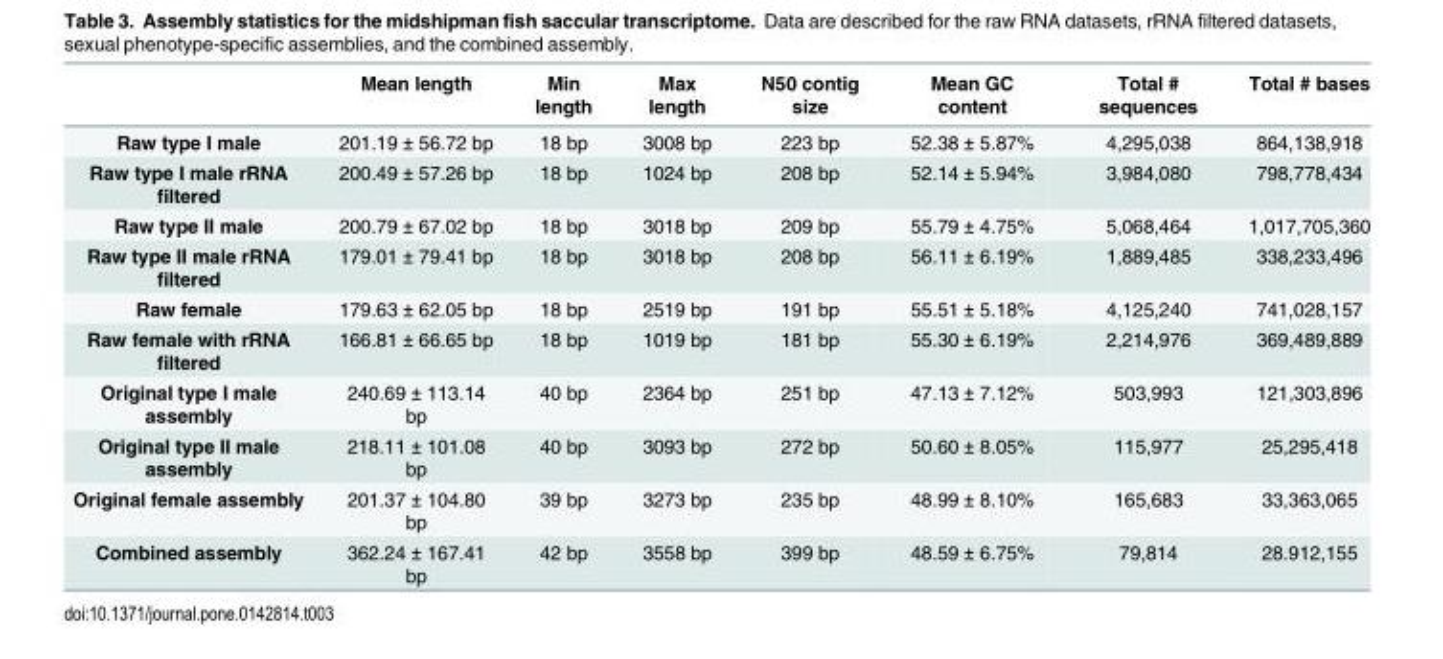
<table><thead><tr><td></td><td>Mean length</td><td>Min length</td><td>Max length</td><td>N50 contig size</td><td>Mean GC content</td><td>Total # sequences</td><td>Total # bases</td></tr></thead><tbody><tr><td>Raw type I male</td><td>201.19 ± 56.72 bp</td><td>18 bp</td><td>3008 bp</td><td>223 bp</td><td>52.38 ± 5.87%</td><td>4,295,038</td><td>864,138,918</td></tr><tr><td>Raw type I male rRNA filtered</td><td>200.49 ± 57.26 bp</td><td>18 bp</td><td>1024 bp</td><td>208 bp</td><td>52.14 ± 5.94%</td><td>3,984,080</td><td>798,778,434</td></tr><tr><td>Raw type II male</td><td>200.79 ± 67.02 bp</td><td>18 bp</td><td>3018 bp</td><td>209 bp</td><td>55.79 ± 4.75%</td><td>5,068,464</td><td>1,017,705,360</td></tr><tr><td>Raw type II male rRNA filtered</td><td>179.01 ± 79.41 bp</td><td>18 bp</td><td>3018 bp</td><td>208 bp</td><td>56.11 ± 6.19%</td><td>1,889,485</td><td>338,233,496</td></tr><tr><td>Raw female</td><td>179.63 ± 62.05 bp</td><td>18 bp</td><td>2519 bp</td><td>191 bp</td><td>55.51 ± 5.18%</td><td>4,125,240</td><td>741,028,157</td></tr><tr><td>Raw female with rRNA filtered</td><td>166.81 ± 66.65 bp</td><td>18 bp</td><td>1019 bp</td><td>181 bp</td><td>55.30 ± 6.19%</td><td>2,214,976</td><td>369,489,889</td></tr><tr><td>Original type I male assembly</td><td>240.69 ± 113.14 bp</td><td>40 bp</td><td>2364 bp</td><td>251 bp</td><td>47.13 ± 7.12%</td><td>503,993</td><td>121,303,896</td></tr><tr><td>Original type II male assembly</td><td>218.11 ± 101.08 bp</td><td>40 bp</td><td>3093 bp</td><td>272 bp</td><td>50.60 ± 8.05%</td><td>115,977</td><td>25,295,418</td></tr><tr><td>Original female assembly</td><td>201.37 ± 104.80 bp</td><td>39 bp</td><td>3273 bp</td><td>235 bp</td><td>48.99 ± 8.10%</td><td>165,683</td><td>33,363,065</td></tr><tr><td>Combined assembly</td><td>362.24 ± 167.41 bp</td><td>42 bp</td><td>3558 bp</td><td>399 bp</td><td>48.59 ± 6.75%</td><td>79,814</td><td>28.912,155</td></tr></tbody></table>